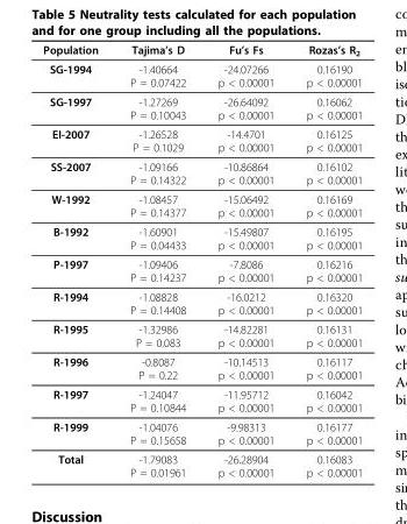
<table><thead><tr><td>Population</td><td>Tajima’s D</td><td>Fu’s Fs</td><td>Rozas’s R2</td></tr></thead><tbody><tr><td>SG-1994</td><td>-1.40664 P = 0.07422</td><td>-24.07266 p &lt; 0.00001</td><td>0.16190 p &lt; 0.00001</td></tr><tr><td>SG-1997</td><td>-1.27269 P = 0.10043</td><td>-26.64092 p &lt; 0.00001</td><td>0.16062 p &lt; 0.00001</td></tr><tr><td>EI-2007</td><td>-1.26528 P = 0.1029</td><td>-14.4701 p &lt; 0.00001</td><td>0.16125 p &lt; 0.00001</td></tr><tr><td>SS-2007</td><td>-1.09166 P = 0.14322</td><td>-10.86864 p &lt; 0.00001</td><td>0.16102 p &lt; 0.00001</td></tr><tr><td>W-1992</td><td>-1.08457 P = 0.14377</td><td>-15.06492 p &lt; 0.00001</td><td>0.16169 p &lt; 0.00001</td></tr><tr><td>B-1992</td><td>-1.60901 P = 0.04433</td><td>-15.49807 p &lt; 0.00001</td><td>0.16195 p &lt; 0.00001</td></tr><tr><td>P-1997</td><td>-1.09406 P = 0.14237</td><td>-7.8086 p &lt; 0.00001</td><td>0.16216 p &lt; 0.00001</td></tr><tr><td>R-1994</td><td>-1.08828 P = 0.14408</td><td>-16.0212 p &lt; 0.00001</td><td>0.16320 p &lt; 0.00001</td></tr><tr><td>R-1995</td><td>-1.32986 P = 0.083</td><td>-14.82281 p &lt; 0.00001</td><td>0.16131 p &lt; 0.00001</td></tr><tr><td>R-1996</td><td>-0.8087 P = 0.22</td><td>-10.14513 p &lt; 0.00001</td><td>0.16117 p &lt; 0.00001</td></tr><tr><td>R-1997</td><td>-1.24047 P = 0.10844</td><td>-11.95712 p &lt; 0.00001</td><td>0.16042 p &lt; 0.00001</td></tr><tr><td>R-1999</td><td>-1.04076 P = 0.15658</td><td>-9.98313 p &lt; 0.00001</td><td>0.16177 p &lt; 0.00001</td></tr><tr><td>Total</td><td>-1.79083 P = 0.01961</td><td>-26.28904 p &lt; 0.00001</td><td>0.16083 p &lt; 0.00001</td></tr></tbody></table>